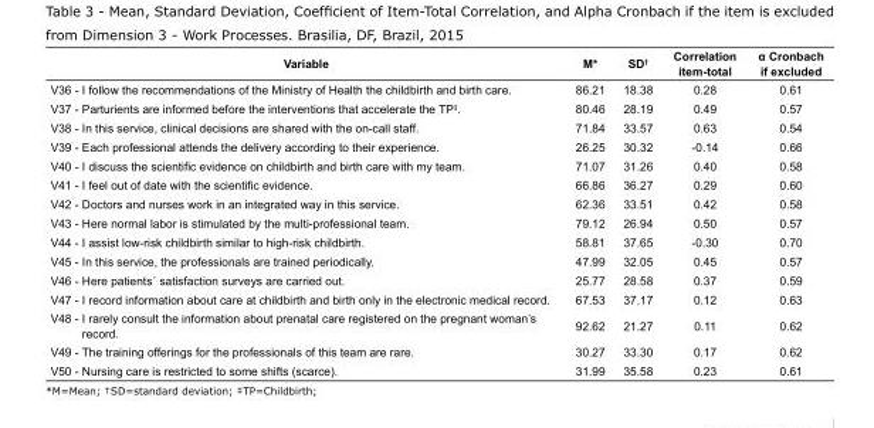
<table><tbody><tr><td>Variable</td><td>M*</td><td>SD<sup>†</sup></td><td>Correlation item-total</td><td>α Cronbach if excluded</td></tr><tr><td>V36 - I follow the recommendations of the Ministry of Health the childbirth and birth care.</td><td>86.21</td><td>18.38</td><td>0.28</td><td>0.61</td></tr><tr><td>V37 - Parturients are informed before the interventions that accelerate the TP<sup>‡</sup>.</td><td>80.46</td><td>28.19</td><td>0.49</td><td>0.57</td></tr><tr><td>V38 - In this service, clinical decisions are shared with the on-call staff.</td><td>71.84</td><td>33.57</td><td>0.63</td><td>0.54</td></tr><tr><td>V39 - Each professional attends the delivery according to their experience.</td><td>26.25</td><td>30.32</td><td>-0.14</td><td>0.66</td></tr><tr><td>V40 - I discuss the scientific evidence on childbirth and birth care with my team.</td><td>71.07</td><td>31.26</td><td>0.40</td><td>0.58</td></tr><tr><td>V41 - I feel out of date with the scientific evidence.</td><td>66.86</td><td>36.27</td><td>0.29</td><td>0.60</td></tr><tr><td>V42 - Doctors and nurses work in an integrated way in this service.</td><td>62.36</td><td>33.51</td><td>0.42</td><td>0.58</td></tr><tr><td>V43 - Here normal labor is stimulated by the multi-professional team.</td><td>79.12</td><td>26.94</td><td>0.50</td><td>0.57</td></tr><tr><td>V44 - I assist low-risk childbirth similar to high-risk childbirth.</td><td>58.81</td><td>37.65</td><td>-0.30</td><td>0.70</td></tr><tr><td>V45 - In this service, the professionals are trained periodically.</td><td>47.99</td><td>32.05</td><td>0.45</td><td>0.57</td></tr><tr><td>V46 - Here patients´ satisfaction surveys are carried out.</td><td>25.77</td><td>28.58</td><td>0.37</td><td>0.59</td></tr><tr><td>V47 - I record information about care at childbirth and birth only in the electronic medical record.</td><td>67.53</td><td>37.17</td><td>0.12</td><td>0.63</td></tr><tr><td>V48 - I rarely consult the information about prenatal care registered on the pregnant woman’s record.</td><td>92.62</td><td>21.27</td><td>0.11</td><td>0.62</td></tr><tr><td>V49 - The training offerings for the professionals of this team are rare.</td><td>30.27</td><td>33.30</td><td>0.17</td><td>0.62</td></tr><tr><td>V50 - Nursing care is restricted to some shifts (scarce).</td><td>31.99</td><td>35.58</td><td>0.23</td><td>0.61</td></tr></tbody></table>